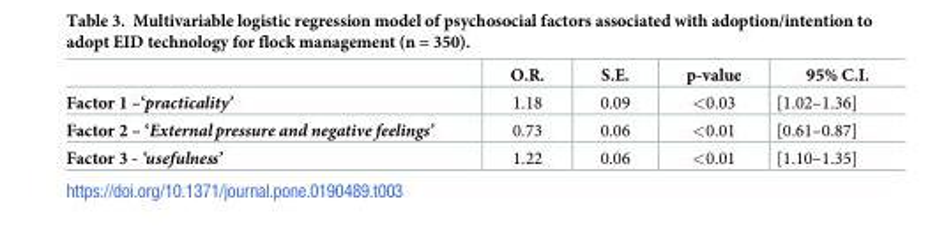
<table><thead><tr><td></td><td>O.R.</td><td>S.E.</td><td>p-value</td><td>95% C.I.</td></tr></thead><tbody><tr><td>Factor 1 –‘practicality’</td><td>1.18</td><td>0.09</td><td>&lt;0.03</td><td>[1.02–1.36]</td></tr><tr><td>Factor 2 – ‘External pressure and negative feelings’</td><td>0.73</td><td>0.06</td><td>&lt;0.01</td><td>[0.61–0.87]</td></tr><tr><td>Factor 3 - ‘usefulness’</td><td>1.22</td><td>0.06</td><td>&lt;0.01</td><td>[1.10–1.35]</td></tr></tbody></table>